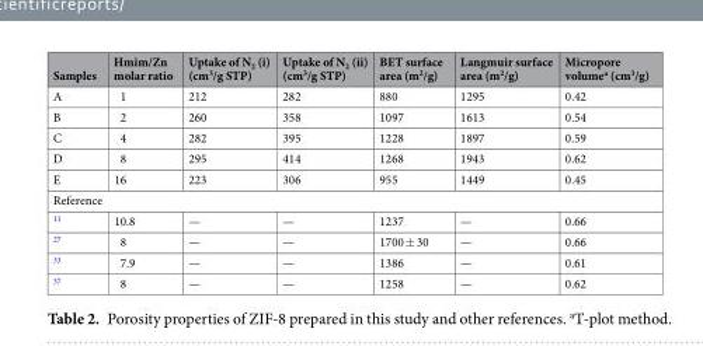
<table><thead><tr><td>Samples</td><td>Hmim/Zn molar ratio</td><td>Uptake of N<sub>2</sub> (i) (cm<sup>3</sup>/g STP)</td><td>Uptake of N<sub>2</sub> (ii) (cm<sup>3</sup>/g STP)</td><td>BET surface area (m<sup>2</sup>/g)</td><td>Langmuir surface area (m<sup>2</sup>/g)</td><td>Micropore volume<sup>a</sup> (cm<sup>3</sup>/g)</td></tr></thead><tbody><tr><td>A</td><td>1</td><td>212</td><td>282</td><td>880</td><td>1295</td><td>0.42</td></tr><tr><td>B</td><td>2</td><td>260</td><td>358</td><td>1097</td><td>1613</td><td>0.54</td></tr><tr><td>C</td><td>4</td><td>282</td><td>395</td><td>1228</td><td>1897</td><td>0.59</td></tr><tr><td>D</td><td>8</td><td>295</td><td>414</td><td>1268</td><td>1943</td><td>0.62</td></tr><tr><td>E</td><td>16</td><td>223</td><td>306</td><td>955</td><td>1449</td><td>0.45</td></tr><tr><td colspan="7">Reference</td></tr><tr><td><sup>11</sup></td><td>10.8</td><td>—</td><td>—</td><td>1237</td><td>—</td><td>0.66</td></tr><tr><td><sup>27</sup></td><td>8</td><td>—</td><td>—</td><td>1700 ± 30</td><td>—</td><td>0.66</td></tr><tr><td><sup>33</sup></td><td>7.9</td><td>—</td><td>—</td><td>1386</td><td>—</td><td>0.61</td></tr><tr><td><sup>37</sup></td><td>8</td><td>—</td><td>—</td><td>1258</td><td>—</td><td>0.62</td></tr></tbody></table>